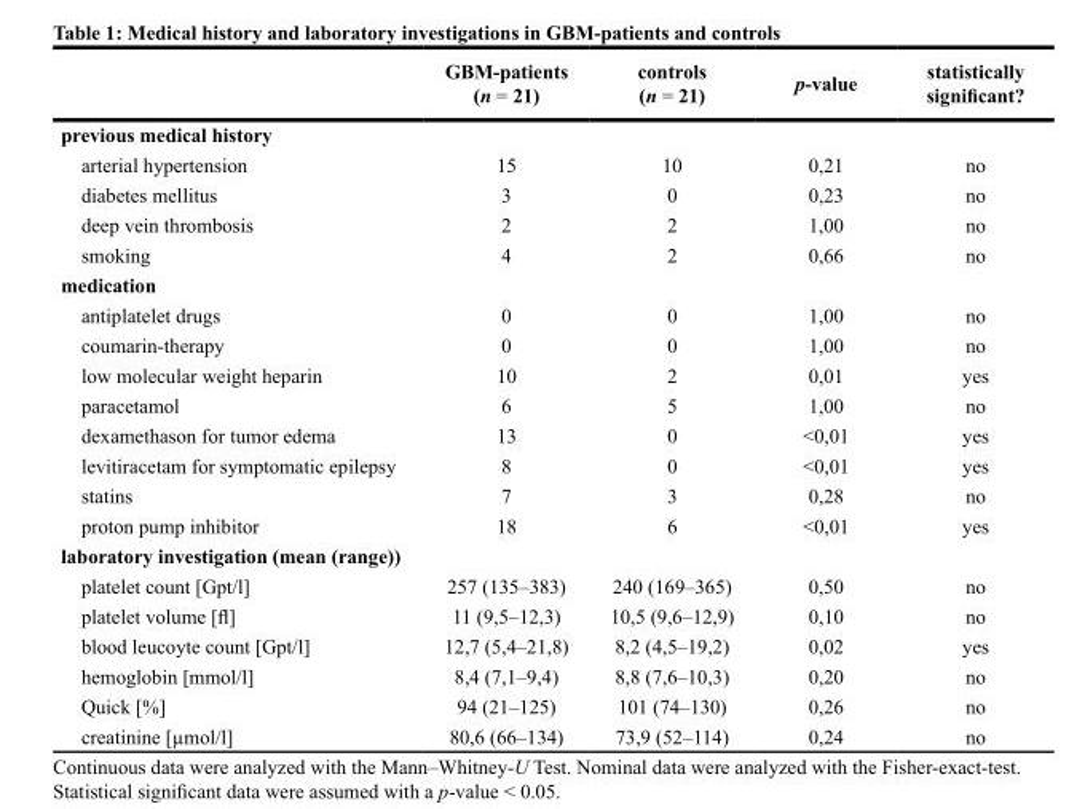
<table><thead><tr><td></td><td>GBM-patients (n = 21)</td><td>controls (n = 21)</td><td>p-value</td><td>statistically significant?</td></tr></thead><tbody><tr><td colspan="5">previous medical history</td></tr><tr><td>arterial hypertension</td><td>15</td><td>10</td><td>0,21</td><td>no</td></tr><tr><td>diabetes mellitus</td><td>3</td><td>0</td><td>0,23</td><td>no</td></tr><tr><td>deep vein thrombosis</td><td>2</td><td>2</td><td>1,00</td><td>no</td></tr><tr><td>smoking</td><td>4</td><td>2</td><td>0,66</td><td>no</td></tr><tr><td colspan="5">medication</td></tr><tr><td>antiplatelet drugs</td><td>0</td><td>0</td><td>1,00</td><td>no</td></tr><tr><td>coumarin-therapy</td><td>0</td><td>0</td><td>1,00</td><td>no</td></tr><tr><td>low molecular weight heparin</td><td>10</td><td>2</td><td>0,01</td><td>yes</td></tr><tr><td>paracetamol</td><td>6</td><td>5</td><td>1,00</td><td>no</td></tr><tr><td>dexamethason for tumor edema</td><td>13</td><td>0</td><td>&lt;0,01</td><td>yes</td></tr><tr><td>levitiracetam for symptomatic epilepsy</td><td>8</td><td>0</td><td>&lt;0,01</td><td>yes</td></tr><tr><td>statins</td><td>7</td><td>3</td><td>0,28</td><td>no</td></tr><tr><td>proton pump inhibitor</td><td>18</td><td>6</td><td>&lt;0,01</td><td>yes</td></tr><tr><td colspan="5">laboratory investigation (mean (range))</td></tr><tr><td>platelet count [Gpt/l]</td><td>257 (135–383)</td><td>240 (169–365)</td><td>0,50</td><td>no</td></tr><tr><td>platelet volume [fl]</td><td>11 (9,5–12,3)</td><td>10,5 (9,6–12,9)</td><td>0,10</td><td>no</td></tr><tr><td>blood leucoyte count [Gpt/l]</td><td>12,7 (5,4–21,8)</td><td>8,2 (4,5–19,2)</td><td>0,02</td><td>yes</td></tr><tr><td>hemoglobin [mmol/l]</td><td>8,4 (7,1–9,4)</td><td>8,8 (7,6–10,3)</td><td>0,20</td><td>no</td></tr><tr><td>Quick [%]</td><td>94 (21–125)</td><td>101 (74–130)</td><td>0,26</td><td>no</td></tr><tr><td>creatinine [µmol/l]</td><td>80,6 (66–134)</td><td>73,9 (52–114)</td><td>0,24</td><td>no</td></tr></tbody></table>